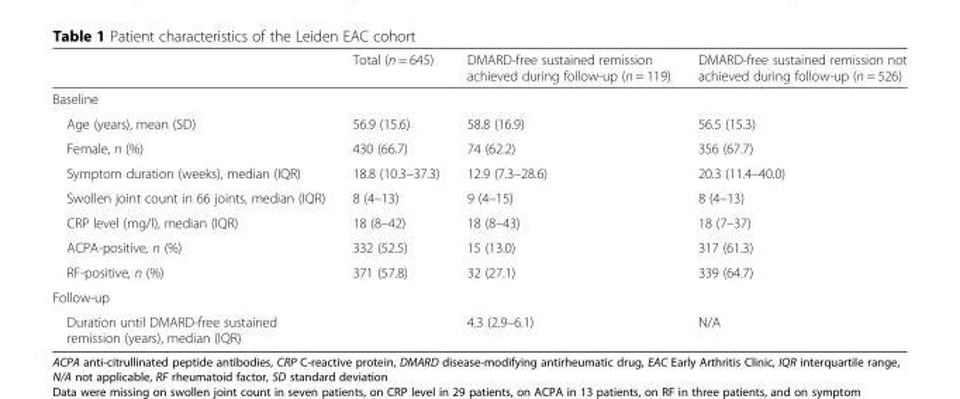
<table><thead><tr><td></td><td>Total (n = 645)</td><td>DMARD-free sustained remission achieved during follow-up (n = 119)</td><td>DMARD-free sustained remission not achieved during follow-up (n = 526)</td></tr></thead><tbody><tr><td colspan="4">Baseline</td></tr><tr><td>Age (years), mean (SD)</td><td>56.9 (15.6)</td><td>58.8 (16.9)</td><td>56.5 (15.3)</td></tr><tr><td>Female, n (%)</td><td>430 (66.7)</td><td>74 (62.2)</td><td>356 (67.7)</td></tr><tr><td>Symptom duration (weeks), median (IQR)</td><td>18.8 (10.3–37.3)</td><td>12.9 (7.3–28.6)</td><td>20.3 (11.4–40.0)</td></tr><tr><td>Swollen joint count in 66 joints, median (IQR)</td><td>8 (4–13)</td><td>9 (4–15)</td><td>8 (4–13)</td></tr><tr><td>CRP level (mg/l), median (IQR)</td><td>18 (8–42)</td><td>18 (8–43)</td><td>18 (7–37)</td></tr><tr><td>ACPA-positive, n (%)</td><td>332 (52.5)</td><td>15 (13.0)</td><td>317 (61.3)</td></tr><tr><td>RF-positive, n (%)</td><td>371 (57.8)</td><td>32 (27.1)</td><td>339 (64.7)</td></tr><tr><td colspan="4">Follow-up</td></tr><tr><td>Duration until DMARD-free sustained remission (years), median (IQR)</td><td></td><td>4.3 (2.9–6.1)</td><td>N/A</td></tr></tbody></table>